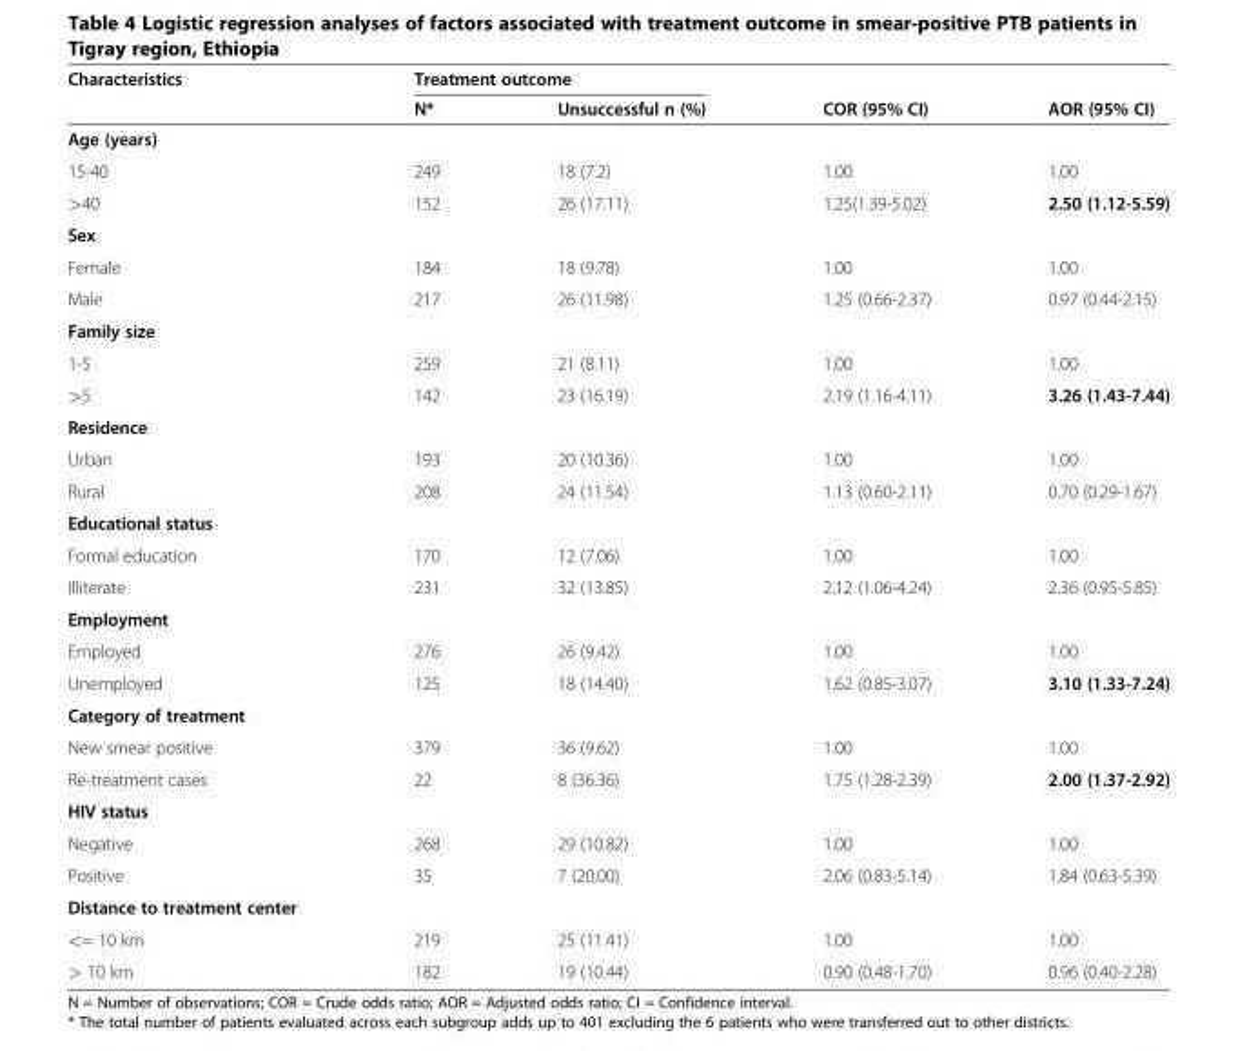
<table><thead><tr><td rowspan="2">Characteristics</td><td colspan="2">Treatment outcome</td><td rowspan="2">COR (95% CI)</td><td rowspan="2">AOR (95% CI)</td></tr><tr><td>N*</td><td>Unsuccessful n (%)</td></tr></thead><tbody><tr><td colspan="5">Age (years)</td></tr><tr><td>15-40</td><td>249</td><td>18 (7.2)</td><td>1.00</td><td>1.00</td></tr><tr><td>&gt;40</td><td>152</td><td>26 (17.11)</td><td>1.25(1.39-5.02)</td><td>2.50 (1.12-5.59)</td></tr><tr><td colspan="5">Sex</td></tr><tr><td>Female</td><td>184</td><td>18 (9.78)</td><td>1.00</td><td>1.00</td></tr><tr><td>Male</td><td>217</td><td>26 (11.98)</td><td>1.25 (0.66-2.37)</td><td>0.97 (0.44-2.15)</td></tr><tr><td colspan="5">Family size</td></tr><tr><td>1-5</td><td>259</td><td>21 (8.11)</td><td>1.00</td><td>1.00</td></tr><tr><td>&gt;5</td><td>142</td><td>23 (16.19)</td><td>2.19 (1.16-4.11)</td><td>3.26 (1.43-7.44)</td></tr><tr><td colspan="5">Residence</td></tr><tr><td>Urban</td><td>193</td><td>20 (10.36)</td><td>1.00</td><td>1.00</td></tr><tr><td>Rural</td><td>208</td><td>24 (11.54)</td><td>1.13 (0.60-2.11)</td><td>0.70 (0.29-1.67)</td></tr><tr><td colspan="5">Educational status</td></tr><tr><td>Formal education</td><td>170</td><td>12 (7.06)</td><td>1.00</td><td>1.00</td></tr><tr><td>Illiterate</td><td>231</td><td>32 (13.85)</td><td>2.12 (1.06-4.24)</td><td>2.36 (0.95-5.85)</td></tr><tr><td colspan="5">Employment</td></tr><tr><td>Employed</td><td>276</td><td>26 (9.42)</td><td>1.00</td><td>1.00</td></tr><tr><td>Unemployed</td><td>125</td><td>18 (14.40)</td><td>1.62 (0.85-3.07)</td><td>3.10 (1.33-7.24)</td></tr><tr><td colspan="5">Category of treatment</td></tr><tr><td>New smear positive</td><td>379</td><td>36 (9.62)</td><td>1.00</td><td>1.00</td></tr><tr><td>Re-treatment cases</td><td>22</td><td>8 (36.36)</td><td>1.75 (1.28-2.39)</td><td>2.00 (1.37-2.92)</td></tr><tr><td colspan="5">HIV status</td></tr><tr><td>Negative</td><td>268</td><td>29 (10.82)</td><td>1.00</td><td>1.00</td></tr><tr><td>Positive</td><td>35</td><td>7 (20,00)</td><td>2.06 (0.83-5.14)</td><td>1.84 (0.63-5.39)</td></tr><tr><td colspan="5">Distance to treatment center</td></tr><tr><td>&lt;= 10 km</td><td>219</td><td>25 (11.41)</td><td>1.00</td><td>1.00</td></tr><tr><td>&gt; 10 km</td><td>182</td><td>19 (10.44)</td><td>0.90 (0.48-1.70)</td><td>0.96 (0.40-2.28)</td></tr></tbody></table>